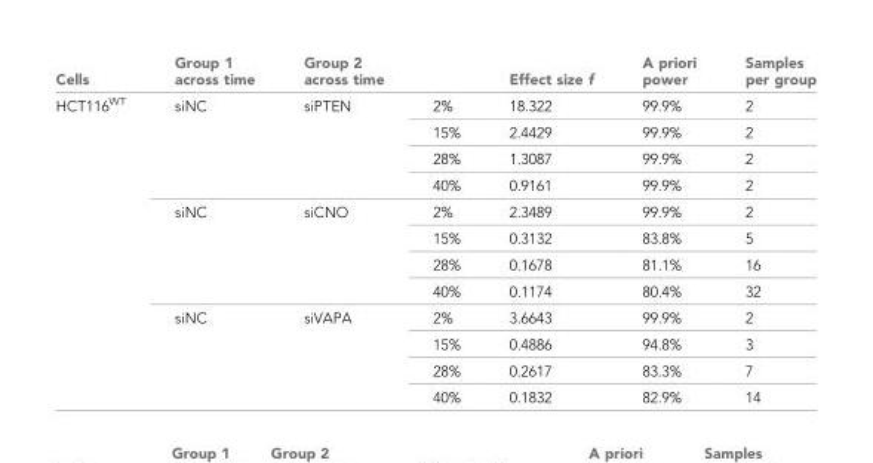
<table><thead><tr><td>Cells</td><td>Group 1 across time</td><td>Group 2 across time</td><td></td><td>Effect size f</td><td>A priori power</td><td>Samples per group</td></tr></thead><tbody><tr><td rowspan="12">HCT116<sup>WT</sup></td><td rowspan="4">siNC</td><td rowspan="4">siPTEN</td><td>2%</td><td>18.322</td><td>99.9%</td><td>2</td></tr><tr><td>15%</td><td>2.4429</td><td>99.9%</td><td>2</td></tr><tr><td>28%</td><td>1.3087</td><td>99.9%</td><td>2</td></tr><tr><td>40%</td><td>0.9161</td><td>99.9%</td><td>2</td></tr><tr><td rowspan="4">siNC</td><td rowspan="4">siCNO</td><td>2%</td><td>2.3489</td><td>99.9%</td><td>2</td></tr><tr><td>15%</td><td>0.3132</td><td>83.8%</td><td>5</td></tr><tr><td>28%</td><td>0.1678</td><td>81.1%</td><td>16</td></tr><tr><td>40%</td><td>0.1174</td><td>80.4%</td><td>32</td></tr><tr><td rowspan="4">siNC</td><td rowspan="4">siVAPA</td><td>2%</td><td>3.6643</td><td>99.9%</td><td>2</td></tr><tr><td>15%</td><td>0.4886</td><td>94.8%</td><td>3</td></tr><tr><td>28%</td><td>0.2617</td><td>83.3%</td><td>7</td></tr><tr><td>40%</td><td>0.1832</td><td>82.9%</td><td>14</td></tr></tbody></table>